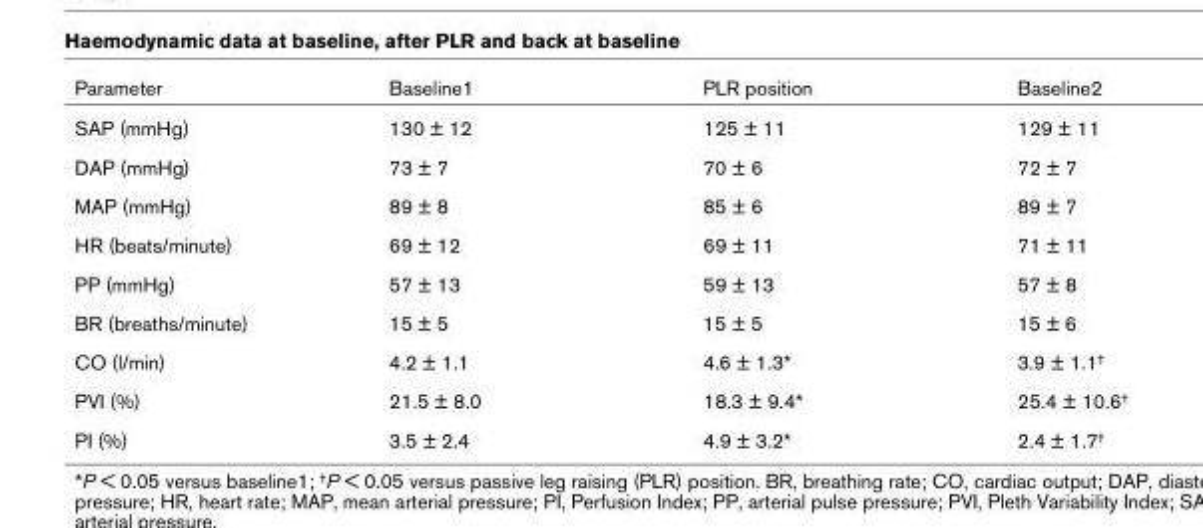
<table><thead><tr><td>Parameter</td><td>Baseline1</td><td>PLR position</td><td>Baseline2</td></tr></thead><tbody><tr><td>SAP (mmHg)</td><td>130 ± 12</td><td>125 ± 11</td><td>129 ± 11</td></tr><tr><td>DAP (mmHg)</td><td>73 ± 7</td><td>70 ± 6</td><td>72 ± 7</td></tr><tr><td>MAP (mmHg)</td><td>89 ± 8</td><td>85 ± 6</td><td>89 ± 7</td></tr><tr><td>HR (beats/minute)</td><td>69 ± 12</td><td>69 ± 11</td><td>71 ± 11</td></tr><tr><td>PP (mmHg)</td><td>57 ± 13</td><td>59 ± 13</td><td>57 ± 8</td></tr><tr><td>BR (breaths/minute)</td><td>15 ± 5</td><td>15 ± 5</td><td>15 ± 6</td></tr><tr><td>CO (l/min)</td><td>4.2 ± 1.1</td><td>4.6 ± 1.3*</td><td>3.9 ± 1.1<sup>†</sup></td></tr><tr><td>PVI (%)</td><td>21.5 ± 8.0</td><td>18.3 ± 9.4*</td><td>25.4 ± 10.6<sup>†</sup></td></tr><tr><td>PI (%)</td><td>3.5 ± 2.4</td><td>4.9 ± 3.2*</td><td>2.4 ± 1.7<sup>†</sup></td></tr></tbody></table>